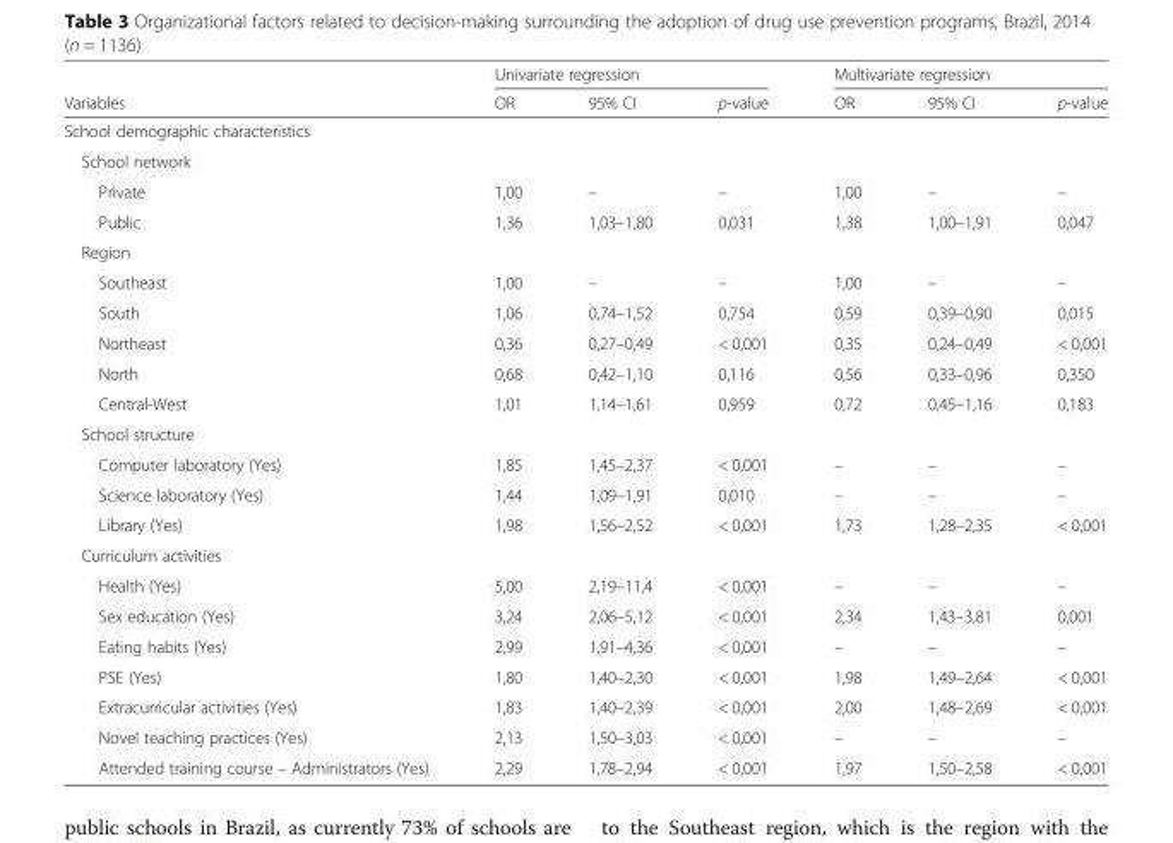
<table><thead><tr><td rowspan="2">Variables</td><td colspan="3">Univariate regression</td><td colspan="3">Multivariate regression</td></tr><tr><td>OR</td><td>95% CI</td><td>p-value</td><td>OR</td><td>95% CI</td><td>p-value</td></tr></thead><tbody><tr><td colspan="7">School demographic characteristics</td></tr><tr><td colspan="7">School network</td></tr><tr><td>Private</td><td>1,00</td><td>–</td><td>–</td><td>1,00</td><td>–</td><td>–</td></tr><tr><td>Public</td><td>1,36</td><td>1,03–1,80</td><td>0,031</td><td>1,38</td><td>1,00–1,91</td><td>0,047</td></tr><tr><td colspan="7">Region</td></tr><tr><td>Southeast</td><td>1,00</td><td>–</td><td>–</td><td>1,00</td><td>–</td><td>–</td></tr><tr><td>South</td><td>1,06</td><td>0,74–1,52</td><td>0,754</td><td>0,59</td><td>0,39–0,90</td><td>0,015</td></tr><tr><td>Northeast</td><td>0,36</td><td>0,27–0,49</td><td>&lt; 0,001</td><td>0,35</td><td>0,24–0,49</td><td>&lt; 0,001</td></tr><tr><td>North</td><td>0,68</td><td>0,42–1,10</td><td>0,116</td><td>0,56</td><td>0,33–0,96</td><td>0,350</td></tr><tr><td>Central-West</td><td>1,01</td><td>1,14–1,61</td><td>0,959</td><td>0,72</td><td>0,45–1,16</td><td>0,183</td></tr><tr><td colspan="7">School structure</td></tr><tr><td>Computer laboratory (Yes)</td><td>1,85</td><td>1,45–2,37</td><td>&lt; 0,001</td><td>–</td><td>–</td><td>–</td></tr><tr><td>Science laboratory (Yes)</td><td>1,44</td><td>1,09–1,91</td><td>0,010</td><td>–</td><td>–</td><td>–</td></tr><tr><td>Library (Yes)</td><td>1,98</td><td>1,56–2,52</td><td>&lt; 0,001</td><td>1,73</td><td>1,28–2,35</td><td>&lt; 0,001</td></tr><tr><td colspan="7">Curriculum activities</td></tr><tr><td>Health (Yes)</td><td>5,00</td><td>2,19–11,4</td><td>&lt; 0,001</td><td>–</td><td>–</td><td>–</td></tr><tr><td>Sex education (Yes)</td><td>3,24</td><td>2,06–5,12</td><td>&lt; 0,001</td><td>2,34</td><td>1,43–3,81</td><td>0,001</td></tr><tr><td>Eating habits (Yes)</td><td>2,99</td><td>1,91–4,36</td><td>&lt; 0,001</td><td>–</td><td>–</td><td>–</td></tr><tr><td>PSE (Yes)</td><td>1,80</td><td>1,40–2,30</td><td>&lt; 0,001</td><td>1,98</td><td>1,49–2,64</td><td>&lt; 0,001</td></tr><tr><td>Extracurricular activities (Yes)</td><td>1,83</td><td>1,40–2,39</td><td>&lt; 0,001</td><td>2,00</td><td>1,48–2,69</td><td>&lt; 0,001</td></tr><tr><td>Novel teaching practices (Yes)</td><td>2,13</td><td>1,50–3,03</td><td>&lt; 0,001</td><td>–</td><td>–</td><td>–</td></tr><tr><td>Attended training course – Administrators (Yes)</td><td>2,29</td><td>1,78–2,94</td><td>&lt; 0,001</td><td>1,97</td><td>1,50–2,58</td><td>&lt; 0,001</td></tr></tbody></table>